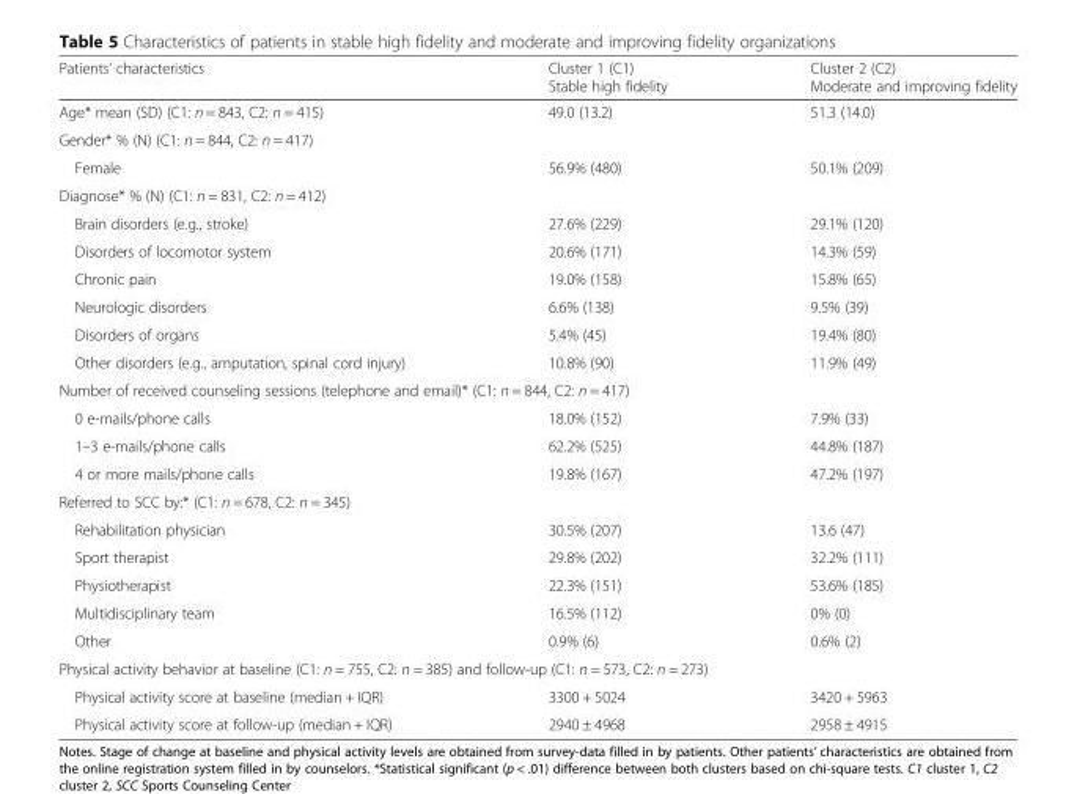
<table><thead><tr><td>Patients’ characteristics</td><td>Cluster 1 (C1) Stable high fidelity</td><td>Cluster 2 (C2) Moderate and improving fidelity</td></tr></thead><tbody><tr><td>Age* mean (SD) (C1: n = 843, C2: n = 415)</td><td>49.0 (13.2)</td><td>51.3 (14.0)</td></tr><tr><td colspan="3">Gender* % (N) (C1: n = 844, C2: n = 417)</td></tr><tr><td>Female</td><td>56.9% (480)</td><td>50.1% (209)</td></tr><tr><td colspan="3">Diagnose* % (N) (C1: n = 831, C2: n = 412)</td></tr><tr><td>Brain disorders (e.g., stroke)</td><td>27.6% (229)</td><td>29.1% (120)</td></tr><tr><td>Disorders of locomotor system</td><td>20.6% (171)</td><td>14.3% (59)</td></tr><tr><td>Chronic pain</td><td>19.0% (158)</td><td>15.8% (65)</td></tr><tr><td>Neurologic disorders</td><td>6.6% (138)</td><td>9.5% (39)</td></tr><tr><td>Disorders of organs</td><td>5.4% (45)</td><td>19.4% (80)</td></tr><tr><td>Other disorders (e.g., amputation, spinal cord injury)</td><td>10.8% (90)</td><td>11.9% (49)</td></tr><tr><td colspan="3">Number of received counseling sessions (telephone and email)* (C1: n = 844, C2: n = 417)</td></tr><tr><td>0 e-mails/phone calls</td><td>18.0% (152)</td><td>7.9% (33)</td></tr><tr><td>1–3 e-mails/phone calls</td><td>62.2% (525)</td><td>44.8% (187)</td></tr><tr><td>4 or more mails/phone calls</td><td>19.8% (167)</td><td>47.2% (197)</td></tr><tr><td colspan="3">Referred to SCC by:* (C1: n = 678, C2: n = 345)</td></tr><tr><td>Rehabilitation physician</td><td>30.5% (207)</td><td>13.6 (47)</td></tr><tr><td>Sport therapist</td><td>29.8% (202)</td><td>32.2% (111)</td></tr><tr><td>Physiotherapist</td><td>22.3% (151)</td><td>53.6% (185)</td></tr><tr><td>Multidisciplinary team</td><td>16.5% (112)</td><td>0% (0)</td></tr><tr><td>Other</td><td>0.9% (6)</td><td>0.6% (2)</td></tr><tr><td colspan="3">Physical activity behavior at baseline (C1: n = 755, C2: n = 385) and follow-up (C1: n = 573, C2: n = 273)</td></tr><tr><td>Physical activity score at baseline (median + IQR)</td><td>3300 + 5024</td><td>3420 + 5963</td></tr><tr><td>Physical activity score at follow-up (median + IQR)</td><td>2940 ± 4968</td><td>2958 ± 4915</td></tr></tbody></table>